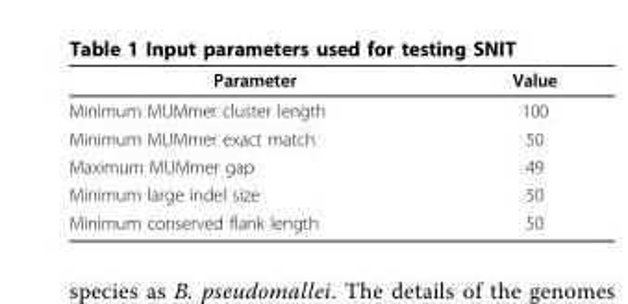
<table><thead><tr><td>Parameter</td><td>Value</td></tr></thead><tbody><tr><td>Minimum MUMmer cluster length</td><td>100</td></tr><tr><td>Minimum MUMmer exact match</td><td>50</td></tr><tr><td>Maximum MUMmer gap</td><td>49</td></tr><tr><td>Minimum large indel size</td><td>50</td></tr><tr><td>Minimum conserved flank length</td><td>50</td></tr></tbody></table>